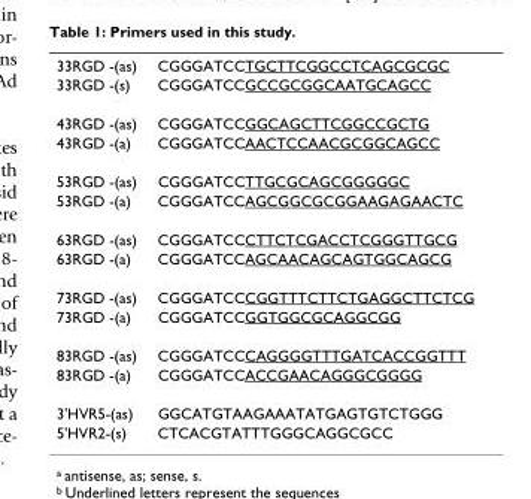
<table><tbody><tr><td>33RGD -(as)</td><td>CGGGATCCTGCTTCGGCCTCAGCGCGC</td></tr><tr><td>33RGD -(s)</td><td>CGGGATCCGCCGCGGCAATGCAGCC</td></tr><tr><td>43RGD -(as)</td><td>CGGGATCCGGCAGCTTCGGCCGCTG</td></tr><tr><td>43RGD -(a)</td><td>CGGGATCCAACTCCAACGCGGCAGCC</td></tr><tr><td>53RGD -(as)</td><td>CGGGATCCTTGCGCAGCGGGGGC</td></tr><tr><td>53RGD -(a)</td><td>CGGGATCCAGCGGCGCGGAAGAGAACTC</td></tr><tr><td>63RGD -(as)</td><td>CGGGATCCCTTCTCGACCTCGGGTTGCG</td></tr><tr><td>63RGD -(a)</td><td>CGGGATCCAGCAACAGCAGTGGCAGCG</td></tr><tr><td>73RGD -(as)</td><td>CGGGATCCCGGTTTCTTCTGAGGCTTCTCG</td></tr><tr><td>73RGD -(a)</td><td>CGGGATCCGGTGGCGCAGGCGG</td></tr><tr><td>83RGD -(as)</td><td>CGGGATCCCAGGGGTTTGATCACCGGTTT</td></tr><tr><td>83RGD -(a)</td><td>CGGGATCCACCGAACAGGGCGGGG</td></tr><tr><td>3&#x27;HVR5-(as)</td><td>GGCATGTAAGAAATATGAGTGTCTGGG</td></tr><tr><td>5&#x27;HVR2-(s)</td><td>CTCACGTATTTGGGCAGGCGCC</td></tr></tbody></table>